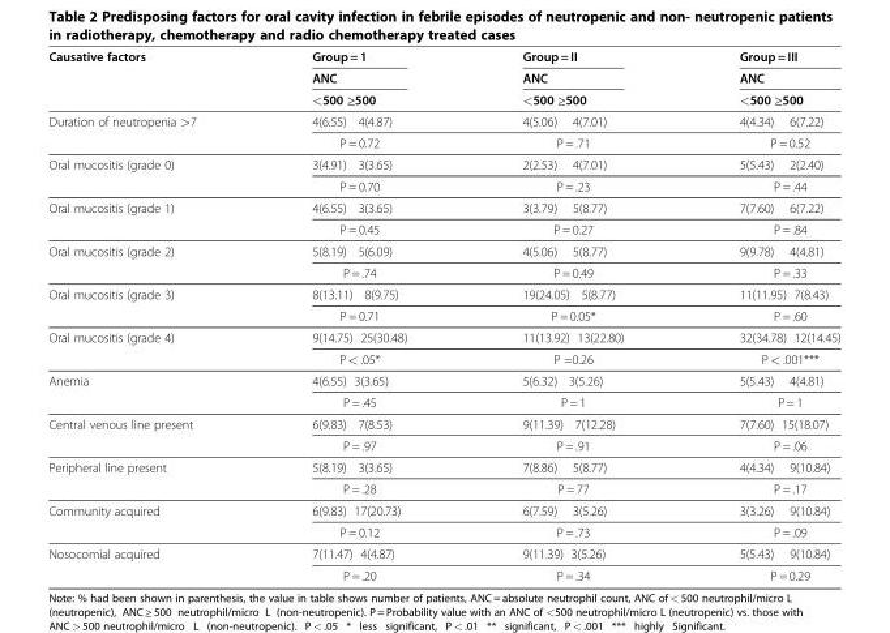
<table><thead><tr><td rowspan="3">Causative factors</td><td rowspan="3">Group = 1 ANC &lt;500 ≥500</td><td rowspan="3">Group = II ANC &lt;500 ≥500</td><td rowspan="3">Group = III ANC &lt;500 ≥500</td></tr><tr></tr><tr></tr></thead><tbody><tr><td rowspan="2">Duration of neutropenia &gt;7</td><td>4(6.55) 4(4.87)</td><td>4(5.06) 4(7.01)</td><td>4(4.34) 6(7.22)</td></tr><tr><td>P = 0.72</td><td>P = .71</td><td>P = 0.52</td></tr><tr><td rowspan="2">Oral mucositis (grade 0)</td><td>3(4.91) 3(3.65)</td><td>2(2.53) 4(7.01)</td><td>5(5.43) 2(2.40)</td></tr><tr><td>P = 0.70</td><td>P = .23</td><td>P = .44</td></tr><tr><td rowspan="2">Oral mucositis (grade 1)</td><td>4(6.55) 3(3.65)</td><td>3(3.79) 5(8.77)</td><td>7(7.60) 6(7.22)</td></tr><tr><td>P = 0.45</td><td>P = 0.27</td><td>P = .84</td></tr><tr><td rowspan="2">Oral mucositis (grade 2)</td><td>5(8.19) 5(6.09)</td><td>4(5.06) 5(8.77)</td><td>9(9.78) 4(4.81)</td></tr><tr><td>P = .74</td><td>P = 0.49</td><td>P = .33</td></tr><tr><td rowspan="2">Oral mucositis (grade 3)</td><td>8(13.11) 8(9.75)</td><td>19(24.05) 5(8.77)</td><td>11(11.95) 7(8.43)</td></tr><tr><td>P = 0.71</td><td>P = 0.05*</td><td>P = .60</td></tr><tr><td rowspan="2">Oral mucositis (grade 4)</td><td>9(14.75) 25(30.48)</td><td>11(13.92) 13(22.80)</td><td>32(34.78) 12(14.45)</td></tr><tr><td>P &lt; .05*</td><td>P =0.26</td><td>P &lt; .001***</td></tr><tr><td rowspan="2">Anemia</td><td>4(6.55) 3(3.65)</td><td>5(6.32) 3(5.26)</td><td>5(5.43) 4(4.81)</td></tr><tr><td>P = .45</td><td>P = 1</td><td>P = 1</td></tr><tr><td rowspan="2">Central venous line present</td><td>6(9.83) 7(8.53)</td><td>9(11.39) 7(12.28)</td><td>7(7.60) 15(18.07)</td></tr><tr><td>P = .97</td><td>P = .91</td><td>P = .06</td></tr><tr><td rowspan="2">Peripheral line present</td><td>5(8.19) 3(3.65)</td><td>7(8.86) 5(8.77)</td><td>4(4.34) 9(10.84)</td></tr><tr><td>P = .28</td><td>P = 77</td><td>P = .17</td></tr><tr><td rowspan="2">Community acquired</td><td>6(9.83) 17(20.73)</td><td>6(7.59) 3(5.26)</td><td>3(3.26) 9(10.84)</td></tr><tr><td>P = 0.12</td><td>P = .73</td><td>P = .09</td></tr><tr><td rowspan="2">Nosocomial acquired</td><td>7(11.47) 4(4.87)</td><td>9(11.39) 3(5.26)</td><td>5(5.43) 9(10.84)</td></tr><tr><td>P = .20</td><td>P = .34</td><td>P = 0.29</td></tr></tbody></table>